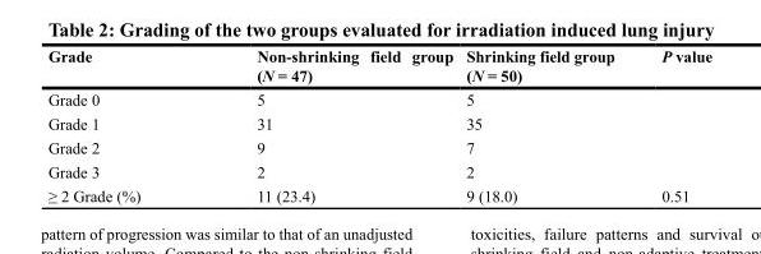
<table><thead><tr><td>Grade</td><td>Non-shrinking field group (N = 47)</td><td>Shrinking field group (N = 50)</td><td>P value</td></tr></thead><tbody><tr><td>Grade 0</td><td>5</td><td>5</td><td></td></tr><tr><td>Grade 1</td><td>31</td><td>35</td><td></td></tr><tr><td>Grade 2</td><td>9</td><td>7</td><td></td></tr><tr><td>Grade 3</td><td>2</td><td>2</td><td></td></tr><tr><td>≥ 2 Grade (%)</td><td>11 (23.4)</td><td>9 (18.0)</td><td>0.51</td></tr></tbody></table>